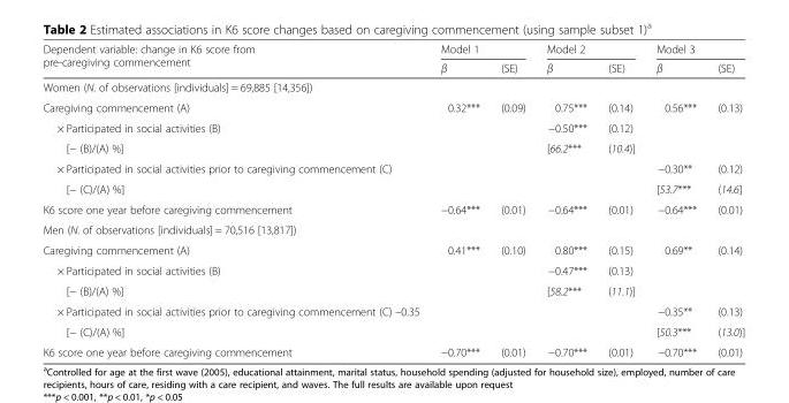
<table><thead><tr><td rowspan="2">Dependent variable: change in K6 score from pre-caregiving commencement</td><td colspan="2">Model 1</td><td colspan="2">Model 2</td><td colspan="2">Model 3</td></tr><tr><td>β</td><td>(SE)</td><td>β</td><td>(SE)</td><td>β</td><td>(SE)</td></tr></thead><tbody><tr><td colspan="7">Women (N. of observations [individuals] = 69,885 [14,356])</td></tr><tr><td>Caregiving commencement (A)</td><td>0.32***</td><td>(0.09)</td><td>0.75***</td><td>(0.14)</td><td>0.56***</td><td>(0.13)</td></tr><tr><td>× Participated in social activities (B)</td><td></td><td></td><td>−0.50***</td><td>(0.12)</td><td></td><td></td></tr><tr><td>[− (B)/(A) %]</td><td></td><td></td><td>[66.2***</td><td>(10.4)]</td><td></td><td></td></tr><tr><td>× Participated in social activities prior to caregiving commencement (C)</td><td></td><td></td><td></td><td></td><td>−0.30**</td><td>(0.12)</td></tr><tr><td>[− (C)/(A) %]</td><td></td><td></td><td></td><td></td><td>[53.7***</td><td>(14.6]</td></tr><tr><td>K6 score one year before caregiving commencement</td><td>−0.64***</td><td>(0.01)</td><td>−0.64***</td><td>(0.01)</td><td>−0.64***</td><td>(0.01)</td></tr><tr><td colspan="7">Men (N. of observations [individuals] = 70,516 [13,817])</td></tr><tr><td>Caregiving commencement (A)</td><td>0.41***</td><td>(0.10)</td><td>0.80***</td><td>(0.15)</td><td>0.69**</td><td>(0.14)</td></tr><tr><td>× Participated in social activities (B)</td><td></td><td></td><td>−0.47***</td><td>(0.13)</td><td></td><td></td></tr><tr><td>[− (B)/(A) %]</td><td></td><td></td><td>[58.2***</td><td>(11.1)]</td><td></td><td></td></tr><tr><td>× Participated in social activities prior to caregiving commencement (C) –0.35</td><td></td><td></td><td></td><td></td><td>−0.35**</td><td>(0.13)</td></tr><tr><td>[− (C)/(A) %]</td><td></td><td></td><td></td><td></td><td>[50.3***</td><td>(13.0)]</td></tr><tr><td>K6 score one year before caregiving commencement</td><td>−0.70***</td><td>(0.01)</td><td>−0.70***</td><td>(0.01)</td><td>−0.70***</td><td>(0.01)</td></tr></tbody></table>